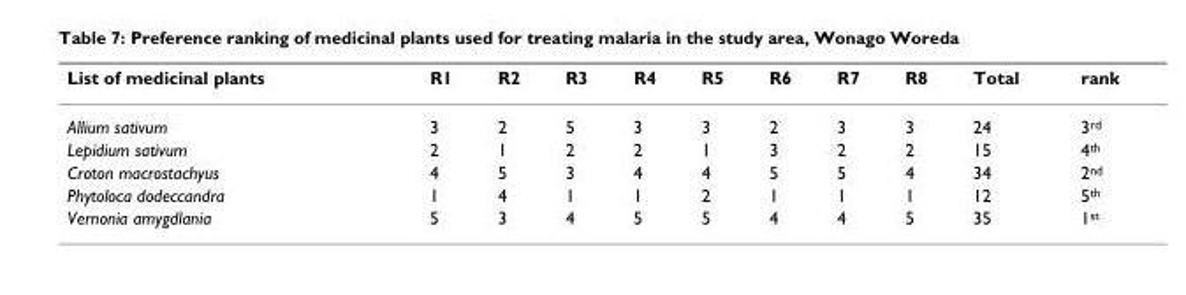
<table><thead><tr><td>List of medicinal plants</td><td>R1</td><td>R2</td><td>R3</td><td>R4</td><td>R5</td><td>R6</td><td>R7</td><td>R8</td><td>Total</td><td>rank</td></tr></thead><tbody><tr><td>Allium sativum</td><td>3</td><td>2</td><td>5</td><td>3</td><td>3</td><td>2</td><td>3</td><td>3</td><td>24</td><td>3<sup>rd</sup></td></tr><tr><td>Lepidium sativum</td><td>2</td><td>1</td><td>2</td><td>2</td><td>1</td><td>3</td><td>2</td><td>2</td><td>15</td><td>4<sup>th</sup></td></tr><tr><td>Croton macrostachyus</td><td>4</td><td>5</td><td>3</td><td>4</td><td>4</td><td>5</td><td>5</td><td>4</td><td>34</td><td>2<sup>nd</sup></td></tr><tr><td>Phytoloca dodeccandra</td><td>1</td><td>4</td><td>1</td><td>1</td><td>2</td><td>1</td><td>1</td><td>1</td><td>12</td><td>5<sup>th</sup></td></tr><tr><td>Vernonia amygdlania</td><td>5</td><td>3</td><td>4</td><td>5</td><td>5</td><td>4</td><td>4</td><td>5</td><td>35</td><td>1<sup>st</sup></td></tr></tbody></table>